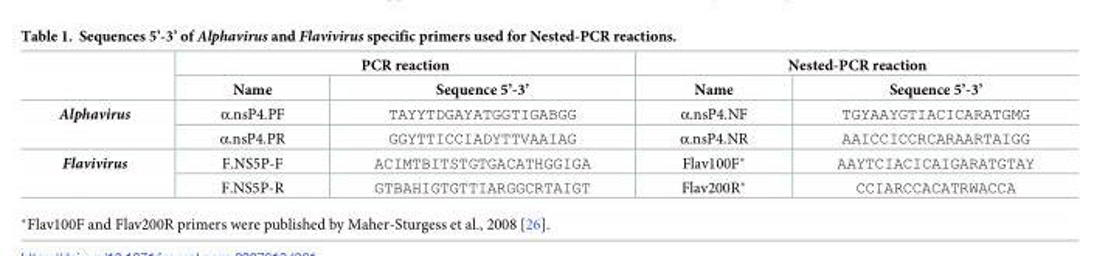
<table><thead><tr><td rowspan="2"></td><td colspan="2">PCR reaction</td><td colspan="2">Nested-PCR reaction</td></tr><tr><td>Name</td><td>Sequence 5’-3’</td><td>Name</td><td>Sequence 5’-3’</td></tr></thead><tbody><tr><td rowspan="2">Alphavirus</td><td>α.nsP4.PF</td><td>TAYYTDGAYATGGTIGABGG</td><td>α.nsP4.NF</td><td>TGYAAYGTIACICARATGMG</td></tr><tr><td>α.nsP4.PR</td><td>GGYTTICCIADYTTVAAIAG</td><td>α.nsP4.NR</td><td>AAICCICCRCARAARTAIGG</td></tr><tr><td rowspan="2">Flavivirus</td><td>F.NS5P-F</td><td>ACIMTBITSTGTGACATHGGIGA</td><td>Flav100F*</td><td>AAYTCIACICAIGARATGTAY</td></tr><tr><td>F.NS5P-R</td><td>GTBAHIGTGTTIARGGCRTAIGT</td><td>Flav200R*</td><td>CCIARCCACATRWACCA</td></tr></tbody></table>